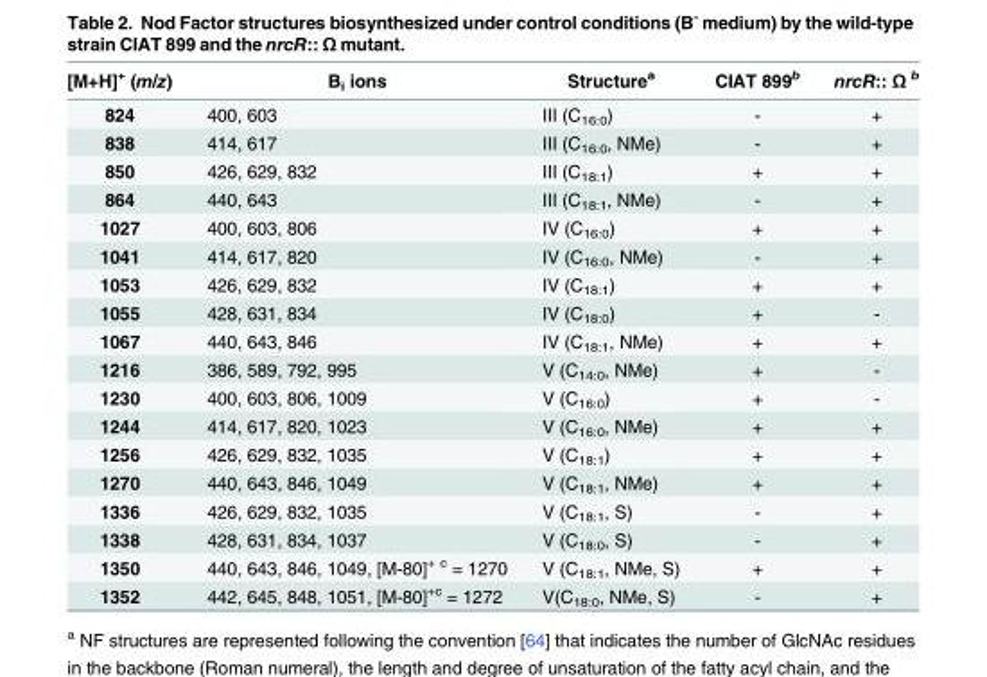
<table><thead><tr><td>[M+H]<sup>+</sup> (m/z)</td><td>B<sub>i</sub> ions</td><td>Structure<sup>a</sup></td><td>CIAT 899<sup>b</sup></td><td>nrcR:: Ω <sup>b</sup></td></tr></thead><tbody><tr><td>824</td><td>400, 603</td><td>III (C<sub>16:0</sub>)</td><td>-</td><td>+</td></tr><tr><td>838</td><td>414, 617</td><td>III (C<sub>16:0</sub>, NMe)</td><td>-</td><td>+</td></tr><tr><td>850</td><td>426, 629, 832</td><td>III (C<sub>18:1</sub>)</td><td>+</td><td>+</td></tr><tr><td>864</td><td>440, 643</td><td>III (C<sub>18:1</sub>, NMe)</td><td>-</td><td>+</td></tr><tr><td>1027</td><td>400, 603, 806</td><td>IV (C<sub>16:0</sub>)</td><td>+</td><td>+</td></tr><tr><td>1041</td><td>414, 617, 820</td><td>IV (C<sub>16:0</sub>, NMe)</td><td>-</td><td>+</td></tr><tr><td>1053</td><td>426, 629, 832</td><td>IV (C<sub>18:1</sub>)</td><td>+</td><td>+</td></tr><tr><td>1055</td><td>428, 631, 834</td><td>IV (C<sub>18:0</sub>)</td><td>+</td><td>-</td></tr><tr><td>1067</td><td>440, 643, 846</td><td>IV (C<sub>18:1</sub>, NMe)</td><td>+</td><td>+</td></tr><tr><td>1216</td><td>386, 589, 792, 995</td><td>V (C<sub>14:0</sub>, NMe)</td><td>+</td><td>-</td></tr><tr><td>1230</td><td>400, 603, 806, 1009</td><td>V (C<sub>16:0</sub>)</td><td>+</td><td>-</td></tr><tr><td>1244</td><td>414, 617, 820, 1023</td><td>V (C<sub>16:0</sub>, NMe)</td><td>+</td><td>+</td></tr><tr><td>1256</td><td>426, 629, 832, 1035</td><td>V (C<sub>18:1</sub>)</td><td>+</td><td>+</td></tr><tr><td>1270</td><td>440, 643, 846, 1049</td><td>V (C<sub>18:1</sub>, NMe)</td><td>+</td><td>+</td></tr><tr><td>1336</td><td>426, 629, 832, 1035</td><td>V (C<sub>18:1</sub>, S)</td><td>-</td><td>+</td></tr><tr><td>1338</td><td>428, 631, 834, 1037</td><td>V (C<sub>18:0</sub>, S)</td><td>-</td><td>+</td></tr><tr><td>1350</td><td>440, 643, 846, 1049, [M-80]<sup>+ c</sup> = 1270</td><td>V (C<sub>18:1</sub>, NMe, S)</td><td>+</td><td>+</td></tr><tr><td>1352</td><td>442, 645, 848, 1051, [M-80]<sup>+c</sup> = 1272</td><td>V(C<sub>18:0</sub>, NMe, S)</td><td>-</td><td>+</td></tr></tbody></table>